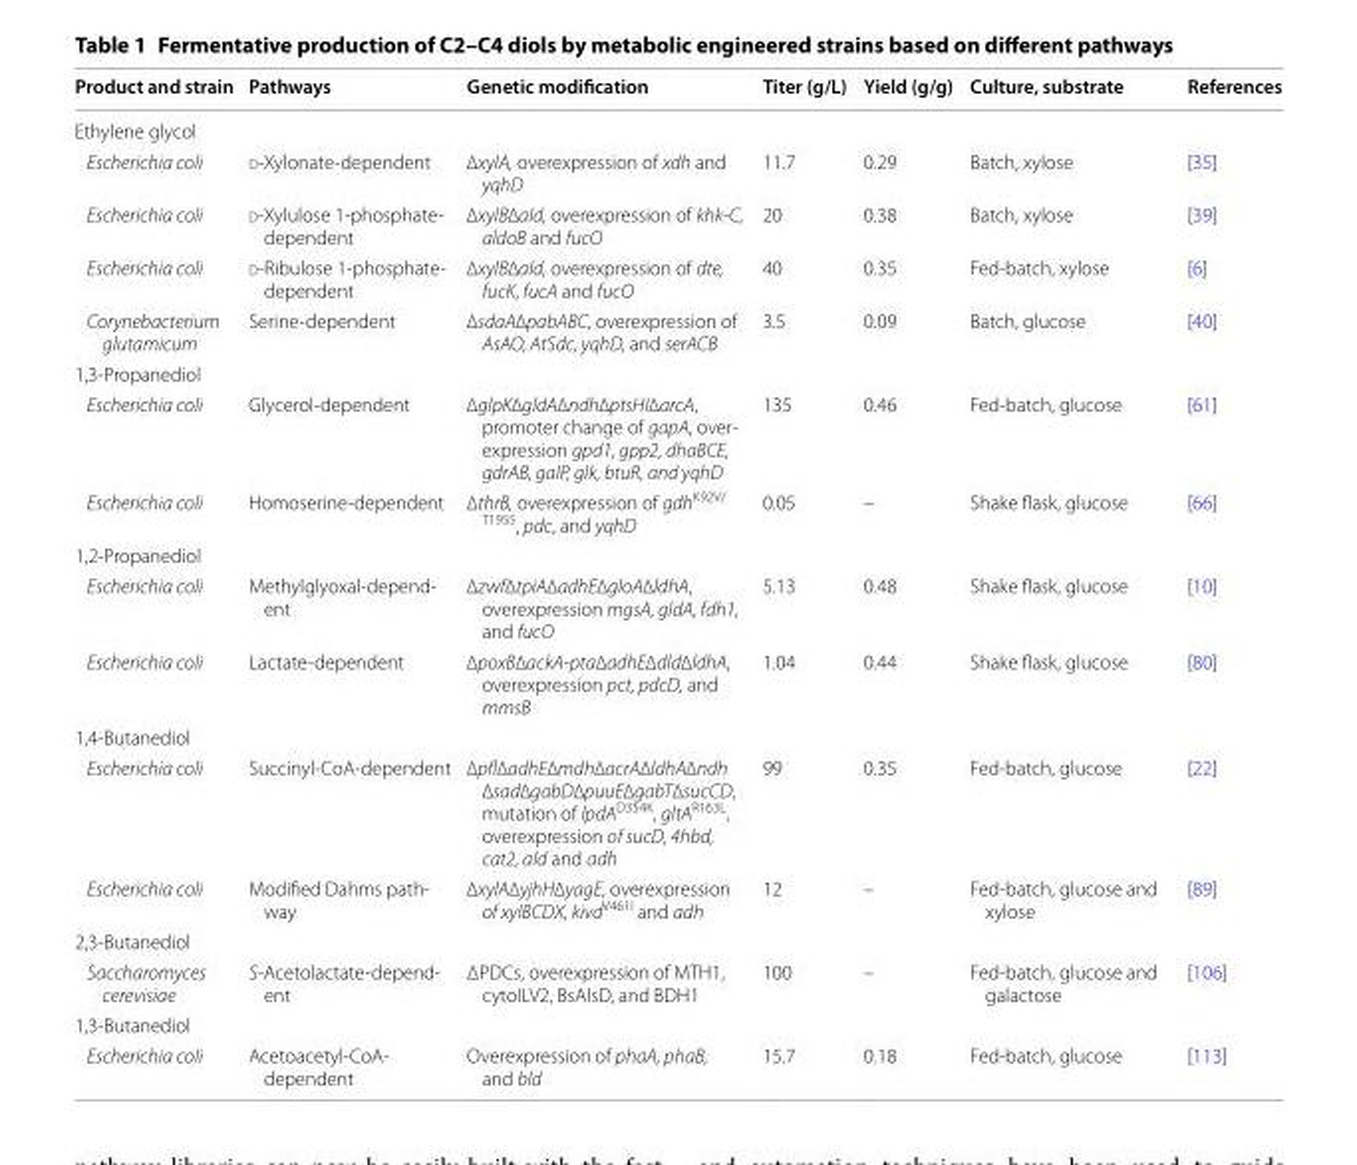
<table><thead><tr><td>Product and strain</td><td>Pathways</td><td>Genetic modification</td><td>Titer (g/L)</td><td>Yield (g/g)</td><td>Culture, substrate</td><td>References</td></tr></thead><tbody><tr><td colspan="7">Ethylene glycol</td></tr><tr><td>Escherichia coli</td><td>d-Xylonate-dependent</td><td>∆xylA, overexpression of xdh and yqhD</td><td>11.7</td><td>0.29</td><td>Batch, xylose</td><td>[35]</td></tr><tr><td>Escherichia coli</td><td>d-Xylulose 1-phosphate- dependent</td><td>∆xylB∆ald, overexpression of khk-C, aldoB and fucO</td><td>20</td><td>0.38</td><td>Batch, xylose</td><td>[39]</td></tr><tr><td>Escherichia coli</td><td>d-Ribulose 1-phosphate- dependent</td><td>∆xylB∆ald, overexpression of dte, fucK, fucA and fucO</td><td>40</td><td>0.35</td><td>Fed-batch, xylose</td><td>[6]</td></tr><tr><td>Corynebacterium glutamicum</td><td>Serine-dependent</td><td>∆sdaA∆pabABC, overexpression of AsAO, AtSdc, yqhD, and serACB</td><td>3.5</td><td>0.09</td><td>Batch, glucose</td><td>[40]</td></tr><tr><td colspan="7">1,3-Propanediol</td></tr><tr><td>Escherichia coli</td><td>Glycerol-dependent</td><td>∆glpK∆gldA∆ndh∆ptsHI∆arcA, promoter change of gapA, over- expression gpd1, gpp2, dhaBCE, gdrAB, galP, glk, btuR, and yqhD</td><td>135</td><td>0.46</td><td>Fed-batch, glucose</td><td>[61]</td></tr><tr><td>Escherichia coli</td><td>Homoserine-dependent</td><td>∆thrB, overexpression of gdh<sup>K92V/ T195S</sup>, pdc, and yqhD</td><td>0.05</td><td>–</td><td>Shake flask, glucose</td><td>[66]</td></tr><tr><td colspan="7">1,2-Propanediol</td></tr><tr><td>Escherichia coli</td><td>Methylglyoxal-depend- ent</td><td>∆zwf∆tpiA∆adhE∆gloA∆ldhA, overexpression mgsA, gldA, fdh1, and fucO</td><td>5.13</td><td>0.48</td><td>Shake flask, glucose</td><td>[10]</td></tr><tr><td>Escherichia coli</td><td>Lactate-dependent</td><td>∆poxB∆ackA-pta∆adhE∆dld∆ldhA, overexpression pct, pdcD, and mmsB</td><td>1.04</td><td>0.44</td><td>Shake flask, glucose</td><td>[80]</td></tr><tr><td colspan="7">1,4-Butanediol</td></tr><tr><td>Escherichia coli</td><td>Succinyl-CoA-dependent</td><td>∆pfl∆adhE∆mdh∆acrA∆ldhA∆ndh ∆sad∆gabD∆puuE∆gabT∆sucCD, mutation of lpdA<sup>D354K</sup>, gltA<sup>R163L</sup>, overexpression of sucD, 4hbd, cat2, ald and adh</td><td>99</td><td>0.35</td><td>Fed-batch, glucose</td><td>[22]</td></tr><tr><td>Escherichia coli</td><td>Modified Dahms path- way</td><td>∆xylA∆yjhH∆yagE, overexpression of xylBCDX, kivd<sup>V461I</sup> and adh</td><td>12</td><td>–</td><td>Fed-batch, glucose and xylose</td><td>[89]</td></tr><tr><td colspan="7">2,3-Butanediol</td></tr><tr><td>Saccharomyces cerevisiae</td><td>S-Acetolactate-depend- ent</td><td>ΔPDCs, overexpression of MTH1, cytoILV2, BsAlsD, and BDH1</td><td>100</td><td>–</td><td>Fed-batch, glucose and galactose</td><td>[106]</td></tr><tr><td colspan="7">1,3-Butanediol</td></tr><tr><td>Escherichia coli</td><td>Acetoacetyl-CoA- dependent</td><td>Overexpression of phaA, phaB, and bld</td><td>15.7</td><td>0.18</td><td>Fed-batch, glucose</td><td>[113]</td></tr></tbody></table>